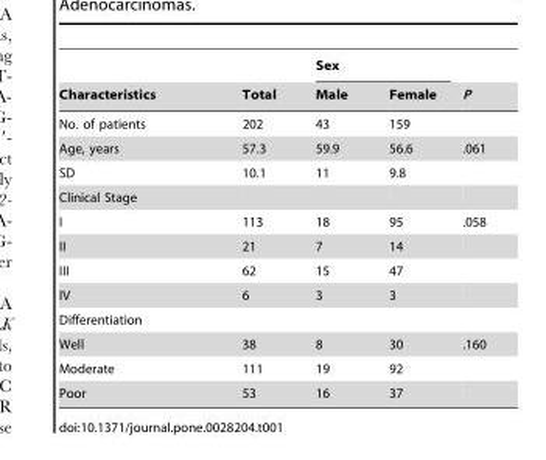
<table><thead><tr><td rowspan="2">Characteristics</td><td rowspan="2">Total</td><td colspan="2">Sex</td><td rowspan="2">P</td></tr><tr><td>Male</td><td>Female</td></tr></thead><tbody><tr><td>No. of patients</td><td>202</td><td>43</td><td>159</td><td></td></tr><tr><td>Age, years</td><td>57.3</td><td>59.9</td><td>56.6</td><td>.061</td></tr><tr><td>SD</td><td>10.1</td><td>11</td><td>9.8</td><td></td></tr><tr><td colspan="5">Clinical Stage</td></tr><tr><td>I</td><td>113</td><td>18</td><td>95</td><td>.058</td></tr><tr><td>II</td><td>21</td><td>7</td><td>14</td><td></td></tr><tr><td>III</td><td>62</td><td>15</td><td>47</td><td></td></tr><tr><td>IV</td><td>6</td><td>3</td><td>3</td><td></td></tr><tr><td colspan="5">Differentiation</td></tr><tr><td>Well</td><td>38</td><td>8</td><td>30</td><td>.160</td></tr><tr><td>Moderate</td><td>111</td><td>19</td><td>92</td><td></td></tr><tr><td>Poor</td><td>53</td><td>16</td><td>37</td><td></td></tr></tbody></table>